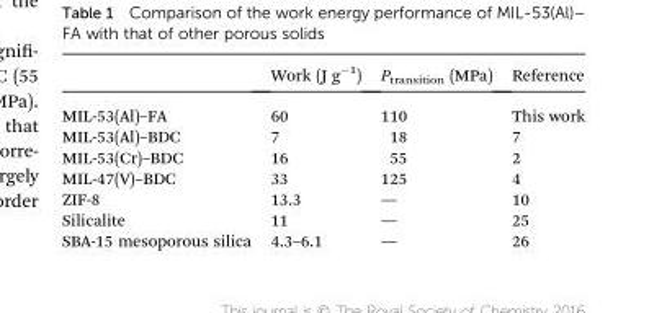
<table><thead><tr><td></td><td>Work (J g<sup>–1</sup>)</td><td>P<sub>transition</sub> (MPa)</td><td>Reference</td></tr></thead><tbody><tr><td>MIL-53(Al)–FA</td><td>60</td><td>110</td><td>This work</td></tr><tr><td>MIL-53(Al)–BDC</td><td>7</td><td>18</td><td>7</td></tr><tr><td>MIL-53(Cr)–BDC</td><td>16</td><td>55</td><td>2</td></tr><tr><td>MIL-47(V)–BDC</td><td>33</td><td>125</td><td>4</td></tr><tr><td>ZIF-8</td><td>13.3</td><td>—</td><td>10</td></tr><tr><td>Silicalite</td><td>11</td><td>—</td><td>25</td></tr><tr><td>SBA-15 mesoporous silica</td><td>4.3–6.1</td><td>—</td><td>26</td></tr></tbody></table>